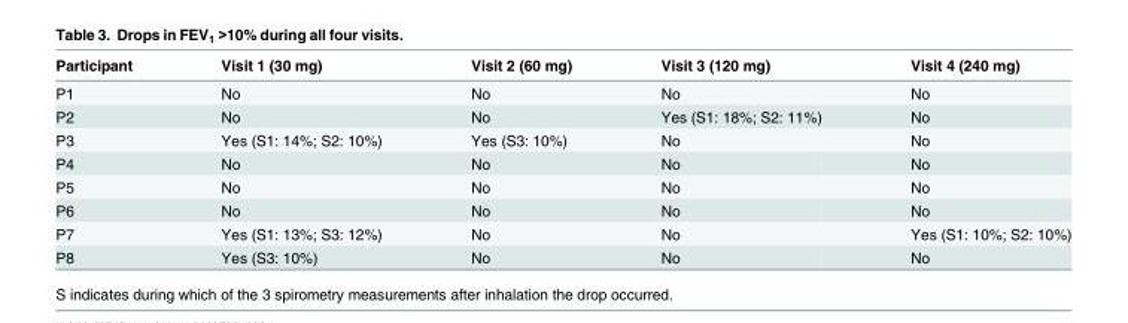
<table><thead><tr><td>Participant</td><td>Visit 1 (30 mg)</td><td>Visit 2 (60 mg)</td><td>Visit 3 (120 mg)</td><td>Visit 4 (240 mg)</td></tr></thead><tbody><tr><td>P1</td><td>No</td><td>No</td><td>No</td><td>No</td></tr><tr><td>P2</td><td>No</td><td>No</td><td>Yes (S1: 18%; S2: 11%)</td><td>No</td></tr><tr><td>P3</td><td>Yes (S1: 14%; S2: 10%)</td><td>Yes (S3: 10%)</td><td>No</td><td>No</td></tr><tr><td>P4</td><td>No</td><td>No</td><td>No</td><td>No</td></tr><tr><td>P5</td><td>No</td><td>No</td><td>No</td><td>No</td></tr><tr><td>P6</td><td>No</td><td>No</td><td>No</td><td>No</td></tr><tr><td>P7</td><td>Yes (S1: 13%; S3: 12%)</td><td>No</td><td>No</td><td>Yes (S1: 10%; S2: 10%)</td></tr><tr><td>P8</td><td>Yes (S3: 10%)</td><td>No</td><td>No</td><td>No</td></tr></tbody></table>